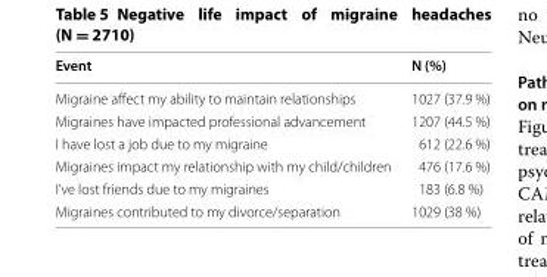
<table><thead><tr><td>Event</td><td>N (%)</td></tr></thead><tbody><tr><td>Migraine affect my ability to maintain relationships</td><td>1027 (37.9 %)</td></tr><tr><td>Migraines have impacted professional advancement</td><td>1207 (44.5 %)</td></tr><tr><td>I have lost a job due to my migraine</td><td>612 (22.6 %)</td></tr><tr><td>Migraines impact my relationship with my child/children</td><td>476 (17.6 %)</td></tr><tr><td>I’ve lost friends due to my migraines</td><td>183 (6.8 %)</td></tr><tr><td>Migraines contributed to my divorce/separation</td><td>1029 (38 %)</td></tr></tbody></table>